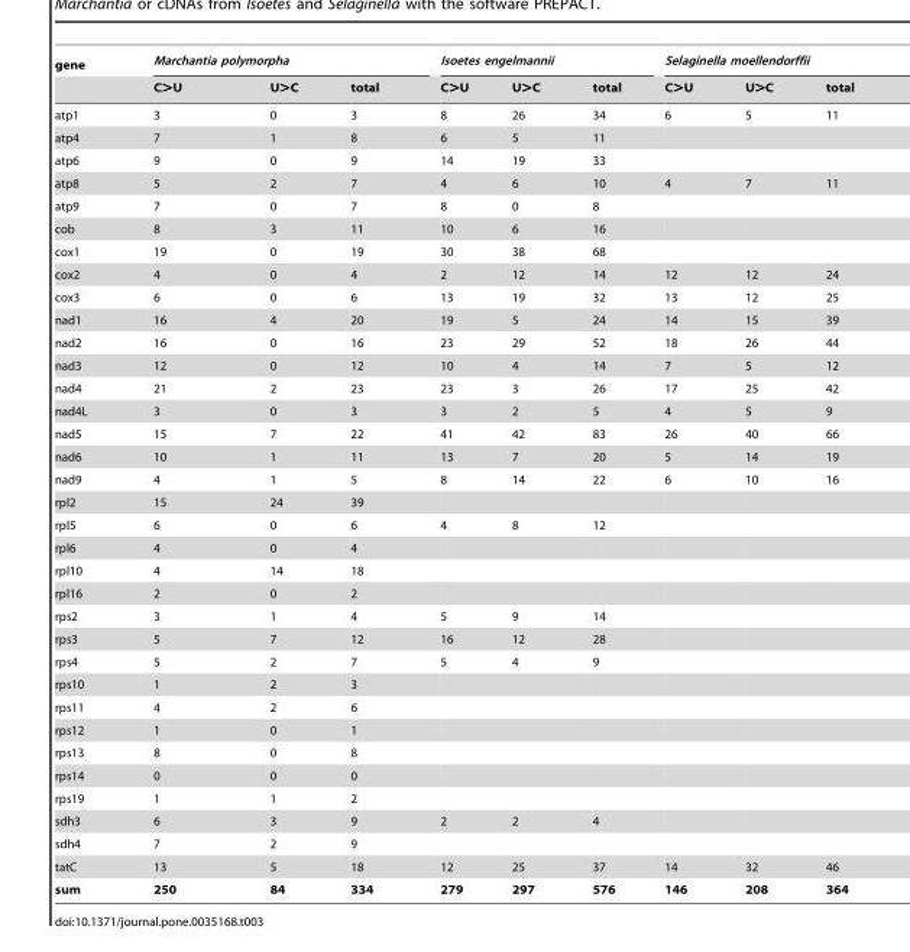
<table><thead><tr><td rowspan="2">gene</td><td colspan="3">Marchantia polymorpha</td><td colspan="3">Isoetes engelmannii</td><td colspan="3">Selaginella moellendorffii</td></tr><tr><td>C&gt;U</td><td>U&gt;C</td><td>total</td><td>C&gt;U</td><td>U&gt;C</td><td>total</td><td>C&gt;U</td><td>U&gt;C</td><td>total</td></tr></thead><tbody><tr><td>atp1</td><td>3</td><td>0</td><td>3</td><td>8</td><td>26</td><td>34</td><td>6</td><td>5</td><td>11</td></tr><tr><td>atp4</td><td>7</td><td>1</td><td>8</td><td>6</td><td>5</td><td>11</td><td></td><td></td><td></td></tr><tr><td>atp6</td><td>9</td><td>0</td><td>9</td><td>14</td><td>19</td><td>33</td><td></td><td></td><td></td></tr><tr><td>atp8</td><td>5</td><td>2</td><td>7</td><td>4</td><td>6</td><td>10</td><td>4</td><td>7</td><td>11</td></tr><tr><td>atp9</td><td>7</td><td>0</td><td>7</td><td>8</td><td>0</td><td>8</td><td></td><td></td><td></td></tr><tr><td>cob</td><td>8</td><td>3</td><td>11</td><td>10</td><td>6</td><td>16</td><td></td><td></td><td></td></tr><tr><td>cox1</td><td>19</td><td>0</td><td>19</td><td>30</td><td>38</td><td>68</td><td></td><td></td><td></td></tr><tr><td>cox2</td><td>4</td><td>0</td><td>4</td><td>2</td><td>12</td><td>14</td><td>12</td><td>12</td><td>24</td></tr><tr><td>cox3</td><td>6</td><td>0</td><td>6</td><td>13</td><td>19</td><td>32</td><td>13</td><td>12</td><td>25</td></tr><tr><td>nad1</td><td>16</td><td>4</td><td>20</td><td>19</td><td>5</td><td>24</td><td>14</td><td>15</td><td>39</td></tr><tr><td>nad2</td><td>16</td><td>0</td><td>16</td><td>23</td><td>29</td><td>52</td><td>18</td><td>26</td><td>44</td></tr><tr><td>nad3</td><td>12</td><td>0</td><td>12</td><td>10</td><td>4</td><td>14</td><td>7</td><td>5</td><td>12</td></tr><tr><td>nad4</td><td>21</td><td>2</td><td>23</td><td>23</td><td>3</td><td>26</td><td>17</td><td>25</td><td>42</td></tr><tr><td>nad4L</td><td>3</td><td>0</td><td>3</td><td>3</td><td>2</td><td>5</td><td>4</td><td>5</td><td>9</td></tr><tr><td>nad5</td><td>15</td><td>7</td><td>22</td><td>41</td><td>42</td><td>83</td><td>26</td><td>40</td><td>66</td></tr><tr><td>nad6</td><td>10</td><td>1</td><td>11</td><td>13</td><td>7</td><td>20</td><td>5</td><td>14</td><td>19</td></tr><tr><td>nad9</td><td>4</td><td>1</td><td>5</td><td>8</td><td>14</td><td>22</td><td>6</td><td>10</td><td>16</td></tr><tr><td>rpl2</td><td>15</td><td>24</td><td>39</td><td></td><td></td><td></td><td></td><td></td><td></td></tr><tr><td>rpl5</td><td>6</td><td>0</td><td>6</td><td>4</td><td>8</td><td>12</td><td></td><td></td><td></td></tr><tr><td>rpl6</td><td>4</td><td>0</td><td>4</td><td></td><td></td><td></td><td></td><td></td><td></td></tr><tr><td>rpl10</td><td>4</td><td>14</td><td>18</td><td></td><td></td><td></td><td></td><td></td><td></td></tr><tr><td>rpl16</td><td>2</td><td>0</td><td>2</td><td></td><td></td><td></td><td></td><td></td><td></td></tr><tr><td>rps2</td><td>3</td><td>1</td><td>4</td><td>5</td><td>9</td><td>14</td><td></td><td></td><td></td></tr><tr><td>rps3</td><td>5</td><td>7</td><td>12</td><td>16</td><td>12</td><td>28</td><td></td><td></td><td></td></tr><tr><td>rps4</td><td>5</td><td>2</td><td>7</td><td>5</td><td>4</td><td>9</td><td></td><td></td><td></td></tr><tr><td>rps10</td><td>1</td><td>2</td><td>3</td><td></td><td></td><td></td><td></td><td></td><td></td></tr><tr><td>rps11</td><td>4</td><td>2</td><td>6</td><td></td><td></td><td></td><td></td><td></td><td></td></tr><tr><td>rps12</td><td>1</td><td>0</td><td>1</td><td></td><td></td><td></td><td></td><td></td><td></td></tr><tr><td>rps13</td><td>8</td><td>0</td><td>8</td><td></td><td></td><td></td><td></td><td></td><td></td></tr><tr><td>rps14</td><td>0</td><td>0</td><td>0</td><td></td><td></td><td></td><td></td><td></td><td></td></tr><tr><td>rps19</td><td>1</td><td>1</td><td>2</td><td></td><td></td><td></td><td></td><td></td><td></td></tr><tr><td>sdh3</td><td>6</td><td>3</td><td>9</td><td>2</td><td>2</td><td>4</td><td></td><td></td><td></td></tr><tr><td>sdh4</td><td>7</td><td>2</td><td>9</td><td></td><td></td><td></td><td></td><td></td><td></td></tr><tr><td>tatC</td><td>13</td><td>5</td><td>18</td><td>12</td><td>25</td><td>37</td><td>14</td><td>32</td><td>46</td></tr><tr><td>sum</td><td>250</td><td>84</td><td>334</td><td>279</td><td>297</td><td>576</td><td>146</td><td>208</td><td>364</td></tr></tbody></table>